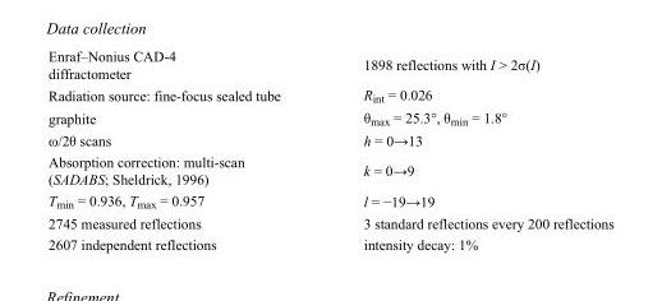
<table><tbody><tr><td>Enraf–Nonius CAD-4 diffractometer</td><td>1898 reflections with I &gt; 2σ(I)</td></tr><tr><td>Radiation source: fine-focus sealed tube</td><td>R<sub>int</sub> = 0.026</td></tr><tr><td>graphite</td><td>θ<sub>max</sub> = 25.3°, θ<sub>min</sub> = 1.8°</td></tr><tr><td>ω/2θ scans</td><td>h = 0→13</td></tr><tr><td>Absorption correction: multi-scan (SADABS; Sheldrick, 1996)</td><td>k = 0→9</td></tr><tr><td>T<sub>min</sub> = 0.936, T<sub>max</sub> = 0.957</td><td>l = −19→19</td></tr><tr><td>2745 measured reflections</td><td>3 standard reflections every 200 reflections</td></tr><tr><td>2607 independent reflections</td><td>intensity decay: 1%</td></tr></tbody></table>